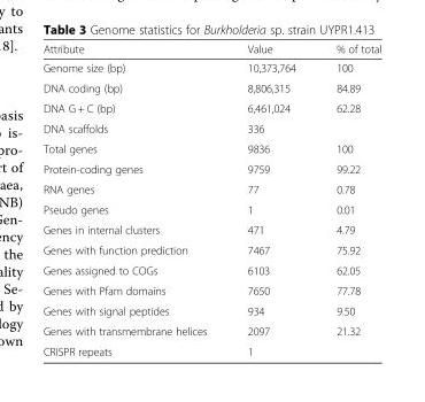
<table><thead><tr><td>Attribute</td><td>Value</td><td>% of total</td></tr></thead><tbody><tr><td>Genome size (bp)</td><td>10,373,764</td><td>100</td></tr><tr><td>DNA coding (bp)</td><td>8,806,315</td><td>84.89</td></tr><tr><td>DNA G + C (bp)</td><td>6,461,024</td><td>62.28</td></tr><tr><td>DNA scaffolds</td><td>336</td><td></td></tr><tr><td>Total genes</td><td>9836</td><td>100</td></tr><tr><td>Protein-coding genes</td><td>9759</td><td>99.22</td></tr><tr><td>RNA genes</td><td>77</td><td>0.78</td></tr><tr><td>Pseudo genes</td><td>1</td><td>0.01</td></tr><tr><td>Genes in internal clusters</td><td>471</td><td>4.79</td></tr><tr><td>Genes with function prediction</td><td>7467</td><td>75.92</td></tr><tr><td>Genes assigned to COGs</td><td>6103</td><td>62.05</td></tr><tr><td>Genes with Pfam domains</td><td>7650</td><td>77.78</td></tr><tr><td>Genes with signal peptides</td><td>934</td><td>9.50</td></tr><tr><td>Genes with transmembrane helices</td><td>2097</td><td>21.32</td></tr><tr><td>CRISPR repeats</td><td>1</td><td></td></tr></tbody></table>